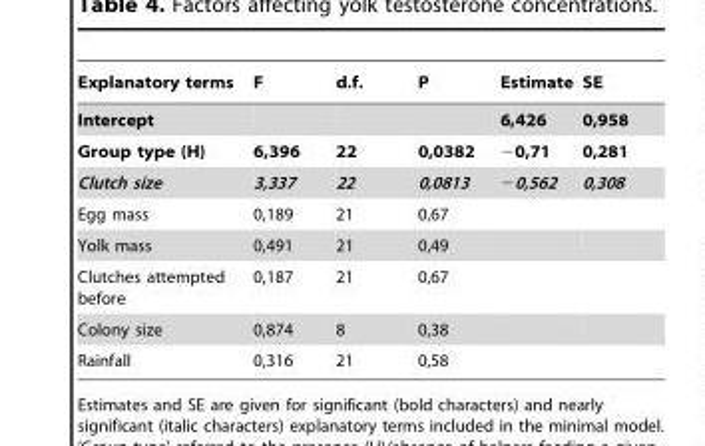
<table><thead><tr><td>Explanatory terms</td><td>F</td><td>d.f.</td><td>P</td><td>Estimate</td><td>SE</td></tr></thead><tbody><tr><td>Intercept</td><td></td><td></td><td></td><td>6,426</td><td>0,958</td></tr><tr><td>Group type (H)</td><td>6,396</td><td>22</td><td>0,0382</td><td>−0,71</td><td>0,281</td></tr><tr><td>Clutch size</td><td>3,337</td><td>22</td><td>0,0813</td><td>−0,562</td><td>0,308</td></tr><tr><td>Egg mass</td><td>0,189</td><td>21</td><td>0,67</td><td></td><td></td></tr><tr><td>Yolk mass</td><td>0,491</td><td>21</td><td>0,49</td><td></td><td></td></tr><tr><td>Clutches attempted before</td><td>0,187</td><td>21</td><td>0,67</td><td></td><td></td></tr><tr><td>Colony size</td><td>0,874</td><td>8</td><td>0,38</td><td></td><td></td></tr><tr><td>Rainfall</td><td>0,316</td><td>21</td><td>0,58</td><td></td><td></td></tr></tbody></table>